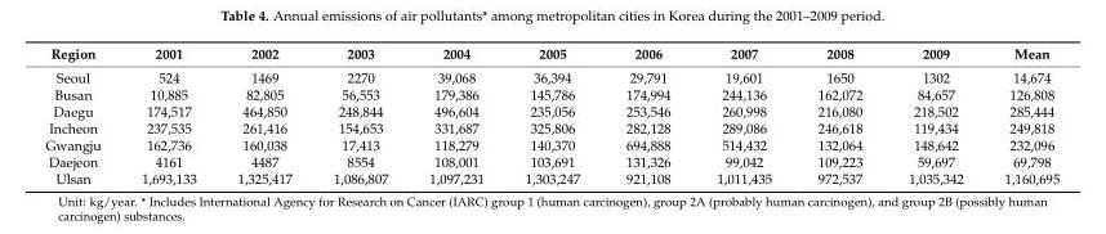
<table><thead><tr><td>Region</td><td>2001</td><td>2002</td><td>2003</td><td>2004</td><td>2005</td><td>2006</td><td>2007</td><td>2008</td><td>2009</td><td>Mean</td></tr></thead><tbody><tr><td>Seoul</td><td>524</td><td>1469</td><td>2270</td><td>39,068</td><td>36,394</td><td>29,791</td><td>19,601</td><td>1650</td><td>1302</td><td>14,674</td></tr><tr><td>Busan</td><td>10,885</td><td>82,805</td><td>56,553</td><td>179,386</td><td>145,786</td><td>174,994</td><td>244,136</td><td>162,072</td><td>84,657</td><td>126,808</td></tr><tr><td>Daegu</td><td>174,517</td><td>464,850</td><td>248,844</td><td>496,604</td><td>235,056</td><td>253,546</td><td>260,998</td><td>216,080</td><td>218,502</td><td>285,444</td></tr><tr><td>Incheon</td><td>237,535</td><td>261,416</td><td>154,653</td><td>331,687</td><td>325,806</td><td>282,128</td><td>289,086</td><td>246,618</td><td>119,434</td><td>249,818</td></tr><tr><td>Gwangju</td><td>162,736</td><td>160,038</td><td>17,413</td><td>118,279</td><td>140,370</td><td>694,888</td><td>514,432</td><td>132,064</td><td>148,642</td><td>232,096</td></tr><tr><td>Daejeon</td><td>4161</td><td>4487</td><td>8554</td><td>108,001</td><td>103,691</td><td>131,326</td><td>99,042</td><td>109,223</td><td>59,697</td><td>69,798</td></tr><tr><td>Ulsan</td><td>1,693,133</td><td>1,325,417</td><td>1,086,807</td><td>1,097,231</td><td>1,303,247</td><td>921,108</td><td>1,011,435</td><td>972,537</td><td>1,035,342</td><td>1,160,695</td></tr></tbody></table>